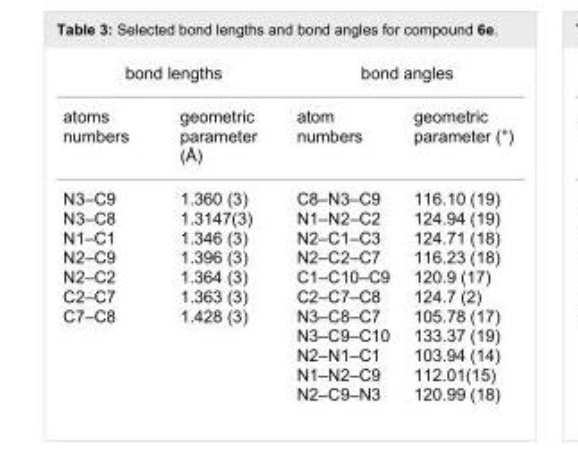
<table><tbody><tr><td colspan="2">bond lengths</td><td colspan="2">bond angles</td></tr><tr><td>atoms numbers</td><td>geometric parameter (Å)</td><td>atom numbers</td><td>geometric parameter (°)</td></tr><tr><td>N3–C9 N3–C8 N1–C1 N2–C9 N2–C2 C2–C7 C7–C8</td><td>1.360 (3) 1.3147(3) 1.346 (3) 1.396 (3) 1.364 (3) 1.363 (3) 1.428 (3)</td><td>C8–N3–C9 N1–N2–C2 N2–C1–C3 N2–C2–C7 C1–C10–C9 C2–C7–C8 N3–C8–C7 N3–C9–C10 N2–N1–C1 N1–N2–C9 N2–C9–N3</td><td>116.10 (19) 124.94 (19) 124.71 (18) 116.23 (18) 120.9 (17) 124.7 (2) 105.78 (17) 133.37 (19) 103.94 (14) 112.01(15) 120.99 (18)</td></tr></tbody></table>